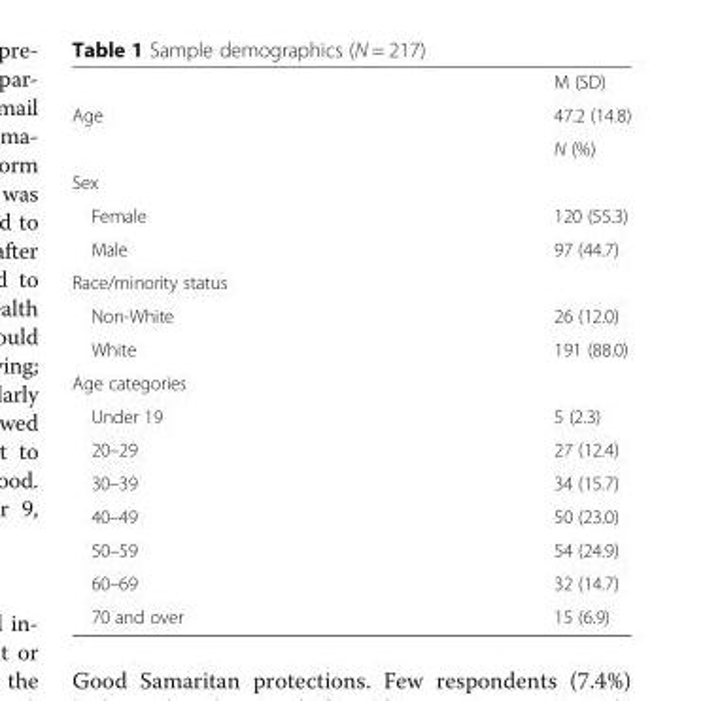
<table><thead><tr><td></td><td>M (SD)</td></tr></thead><tbody><tr><td rowspan="2">Age</td><td>47.2 (14.8)</td></tr><tr><td>N (%)</td></tr><tr><td colspan="2">Sex</td></tr><tr><td>Female</td><td>120 (55.3)</td></tr><tr><td>Male</td><td>97 (44.7)</td></tr><tr><td colspan="2">Race/minority status</td></tr><tr><td>Non-White</td><td>26 (12.0)</td></tr><tr><td>White</td><td>191 (88.0)</td></tr><tr><td colspan="2">Age categories</td></tr><tr><td>Under 19</td><td>5 (2.3)</td></tr><tr><td>20–29</td><td>27 (12.4)</td></tr><tr><td>30–39</td><td>34 (15.7)</td></tr><tr><td>40–49</td><td>50 (23.0)</td></tr><tr><td>50–59</td><td>54 (24.9)</td></tr><tr><td>60–69</td><td>32 (14.7)</td></tr><tr><td>70 and over</td><td>15 (6.9)</td></tr></tbody></table>